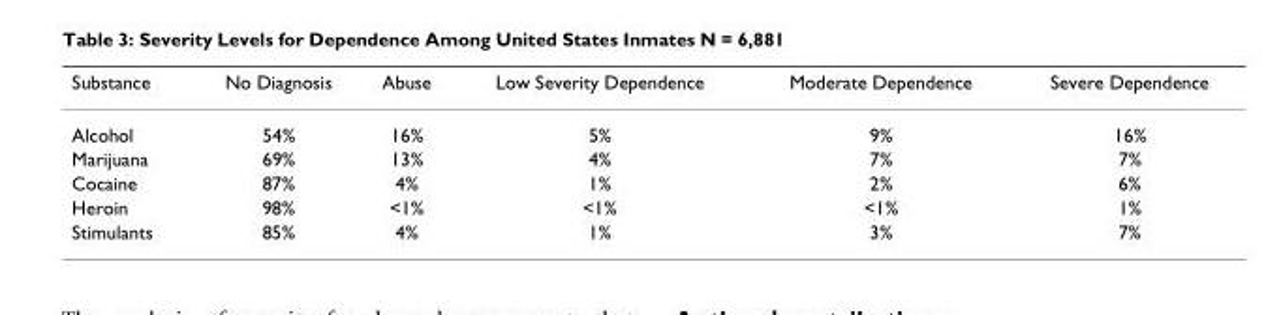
<table><thead><tr><td>Substance</td><td>No Diagnosis</td><td>Abuse</td><td>Low Severity Dependence</td><td>Moderate Dependence</td><td>Severe Dependence</td></tr></thead><tbody><tr><td>Alcohol</td><td>54%</td><td>16%</td><td>5%</td><td>9%</td><td>16%</td></tr><tr><td>Marijuana</td><td>69%</td><td>13%</td><td>4%</td><td>7%</td><td>7%</td></tr><tr><td>Cocaine</td><td>87%</td><td>4%</td><td>1%</td><td>2%</td><td>6%</td></tr><tr><td>Heroin</td><td>98%</td><td>&lt;1%</td><td>&lt;1%</td><td>&lt;1%</td><td>1%</td></tr><tr><td>Stimulants</td><td>85%</td><td>4%</td><td>1%</td><td>3%</td><td>7%</td></tr></tbody></table>